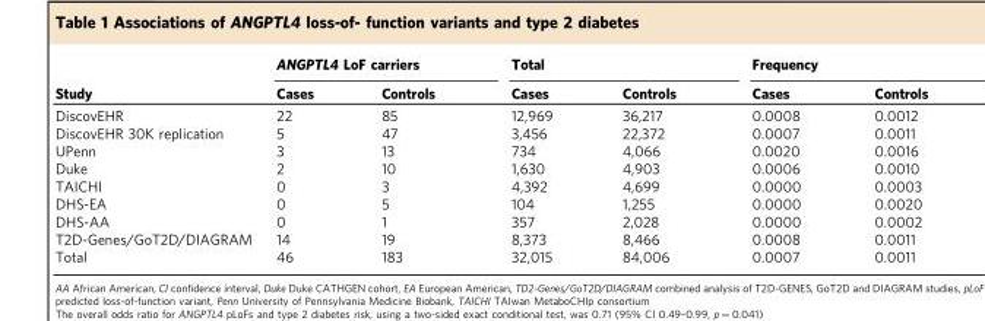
<table><thead><tr><td rowspan="2">Study</td><td colspan="2">ANGPTL4 LoF carriers</td><td colspan="2">Total</td><td colspan="2">Frequency</td></tr><tr><td>Cases</td><td>Controls</td><td>Cases</td><td>Controls</td><td>Cases</td><td>Controls</td></tr></thead><tbody><tr><td>DiscovEHR</td><td>22</td><td>85</td><td>12,969</td><td>36,217</td><td>0.0008</td><td>0.0012</td></tr><tr><td>DiscovEHR 30K replication</td><td>5</td><td>47</td><td>3,456</td><td>22,372</td><td>0.0007</td><td>0.0011</td></tr><tr><td>UPenn</td><td>3</td><td>13</td><td>734</td><td>4,066</td><td>0.0020</td><td>0.0016</td></tr><tr><td>Duke</td><td>2</td><td>10</td><td>1,630</td><td>4,903</td><td>0.0006</td><td>0.0010</td></tr><tr><td>TAICHI</td><td>0</td><td>3</td><td>4,392</td><td>4,699</td><td>0.0000</td><td>0.0003</td></tr><tr><td>DHS-EA</td><td>0</td><td>5</td><td>104</td><td>1,255</td><td>0.0000</td><td>0.0020</td></tr><tr><td>DHS-AA</td><td>0</td><td>1</td><td>357</td><td>2,028</td><td>0.0000</td><td>0.0002</td></tr><tr><td>T2D-Genes/GoT2D/DIAGRAM</td><td>14</td><td>19</td><td>8,373</td><td>8,466</td><td>0.0008</td><td>0.0011</td></tr><tr><td>Total</td><td>46</td><td>183</td><td>32,015</td><td>84,006</td><td>0.0007</td><td>0.0011</td></tr></tbody></table>